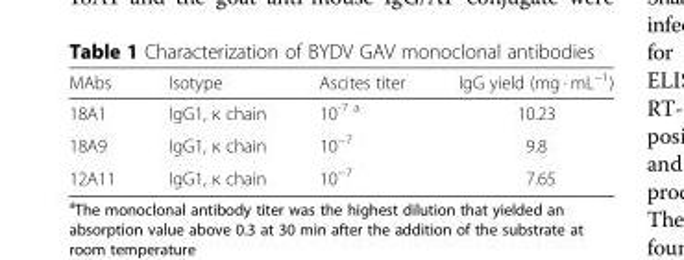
<table><thead><tr><td>MAbs</td><td>Isotype</td><td>Ascites titer</td><td>IgG yield (mg · mL<sup>−1</sup>)</td></tr></thead><tbody><tr><td>18A1</td><td>IgG1, κ chain</td><td>10<sup>-7 a</sup></td><td>10.23</td></tr><tr><td>18A9</td><td>IgG1, κ chain</td><td>10<sup>−7</sup></td><td>9.8</td></tr><tr><td>12A11</td><td>IgG1, κ chain</td><td>10<sup>−7</sup></td><td>7.65</td></tr></tbody></table>